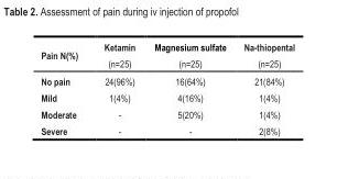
<table><thead><tr><td>Pain N(%)</td><td>Ketamin (n=25)</td><td>Magnesium sulfate (n=25)</td><td>Na-thiopental (n=25)</td></tr></thead><tbody><tr><td>No pain</td><td>24(96%)</td><td>16(64%)</td><td>21(84%)</td></tr><tr><td>Mild</td><td>1(4%)</td><td>4(16%)</td><td>1(4%)</td></tr><tr><td>Moderate</td><td>-</td><td>5(20%)</td><td>1(4%)</td></tr><tr><td>Severe</td><td>-</td><td>-</td><td>2(8%)</td></tr></tbody></table>